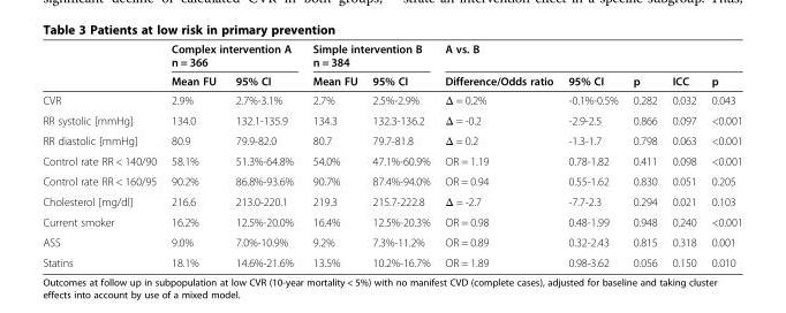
<table><thead><tr><td rowspan="2"></td><td colspan="2">Complex intervention A n = 366</td><td colspan="2">Simple intervention B n = 384</td><td colspan="5">A vs. B</td></tr><tr><td>Mean FU</td><td>95% CI</td><td>Mean FU</td><td>95% CI</td><td>Difference/Odds ratio</td><td>95% CI</td><td>p</td><td>ICC</td><td>p</td></tr></thead><tbody><tr><td>CVR</td><td>2.9%</td><td>2.7%-3.1%</td><td>2.7%</td><td>2.5%-2.9%</td><td>Δ = 0.2%</td><td>-0.1%-0.5%</td><td>0.282</td><td>0.032</td><td>0.043</td></tr><tr><td>RR systolic [mmHg]</td><td>134.0</td><td>132.1-135.9</td><td>134.3</td><td>132.3-136.2</td><td>Δ = -0.2</td><td>-2.9-2.5</td><td>0.866</td><td>0.097</td><td>&lt;0.001</td></tr><tr><td>RR diastolic [mmHg]</td><td>80.9</td><td>79.9-82.0</td><td>80.7</td><td>79.7-81.8</td><td>Δ = 0.2</td><td>-1.3-1.7</td><td>0.798</td><td>0.063</td><td>&lt;0.001</td></tr><tr><td>Control rate RR &lt; 140/90</td><td>58.1%</td><td>51.3%-64.8%</td><td>54.0%</td><td>47.1%-60.9%</td><td>OR = 1.19</td><td>0.78-1.82</td><td>0.411</td><td>0.098</td><td>&lt;0.001</td></tr><tr><td>Control rate RR &lt; 160/95</td><td>90.2%</td><td>86.8%-93.6%</td><td>90.7%</td><td>87.4%-94.0%</td><td>OR = 0.94</td><td>0.55-1.62</td><td>0.830</td><td>0.051</td><td>0.205</td></tr><tr><td>Cholesterol [mg/dl]</td><td>216.6</td><td>213.0-220.1</td><td>219.3</td><td>215.7-222.8</td><td>Δ = -2.7</td><td>-7.7-2.3</td><td>0.294</td><td>0.021</td><td>0.103</td></tr><tr><td>Current smoker</td><td>16.2%</td><td>12.5%-20.0%</td><td>16.4%</td><td>12.5%-20.3%</td><td>OR = 0.98</td><td>0.48-1.99</td><td>0.948</td><td>0.240</td><td>&lt;0.001</td></tr><tr><td>ASS</td><td>9.0%</td><td>7.0%-10.9%</td><td>9.2%</td><td>7.3%-11.2%</td><td>OR = 0.89</td><td>0.32-2.43</td><td>0.815</td><td>0.318</td><td>0.001</td></tr><tr><td>Statins</td><td>18.1%</td><td>14.6%-21.6%</td><td>13.5%</td><td>10.2%-16.7%</td><td>OR = 1.89</td><td>0.98-3.62</td><td>0.056</td><td>0.150</td><td>0.010</td></tr></tbody></table>